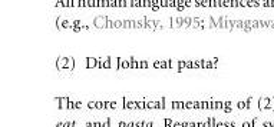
<table><tbody><tr><td>(2)</td><td>Did John eat pasta?</td></tr></tbody></table>